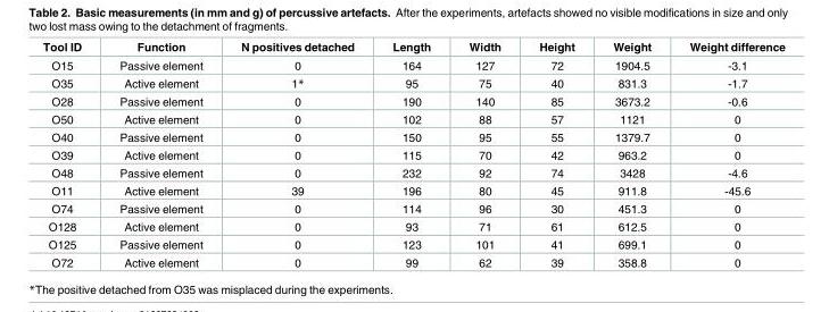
<table><thead><tr><td>Tool ID</td><td>Function</td><td>N positives detached</td><td>Length</td><td>Width</td><td>Height</td><td>Weight</td><td>Weight difference</td></tr></thead><tbody><tr><td>O15</td><td>Passive element</td><td>0</td><td>164</td><td>127</td><td>72</td><td>1904.5</td><td>-3.1</td></tr><tr><td>O35</td><td>Active element</td><td>1*</td><td>95</td><td>75</td><td>40</td><td>831.3</td><td>-1.7</td></tr><tr><td>O28</td><td>Passive element</td><td>0</td><td>190</td><td>140</td><td>85</td><td>3673.2</td><td>-0.6</td></tr><tr><td>O50</td><td>Active element</td><td>0</td><td>102</td><td>88</td><td>57</td><td>1121</td><td>0</td></tr><tr><td>O40</td><td>Passive element</td><td>0</td><td>150</td><td>95</td><td>55</td><td>1379.7</td><td>0</td></tr><tr><td>O39</td><td>Active element</td><td>0</td><td>115</td><td>70</td><td>42</td><td>963.2</td><td>0</td></tr><tr><td>O48</td><td>Passive element</td><td>0</td><td>232</td><td>92</td><td>74</td><td>3428</td><td>-4.6</td></tr><tr><td>O11</td><td>Active element</td><td>39</td><td>196</td><td>80</td><td>45</td><td>911.8</td><td>-45.6</td></tr><tr><td>O74</td><td>Passive element</td><td>0</td><td>114</td><td>96</td><td>30</td><td>451.3</td><td>0</td></tr><tr><td>O128</td><td>Active element</td><td>0</td><td>93</td><td>71</td><td>61</td><td>612.5</td><td>0</td></tr><tr><td>O125</td><td>Passive element</td><td>0</td><td>123</td><td>101</td><td>41</td><td>699.1</td><td>0</td></tr><tr><td>O72</td><td>Active element</td><td>0</td><td>99</td><td>62</td><td>39</td><td>358.8</td><td>0</td></tr></tbody></table>